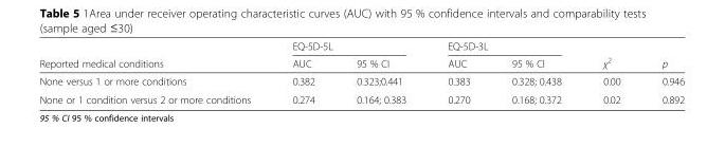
<table><thead><tr><td rowspan="2">Reported medical conditions</td><td colspan="2">EQ-5D-5L</td><td colspan="2">EQ-5D-3L</td><td rowspan="2">χ<sup>2</sup></td><td rowspan="2">p</td></tr><tr><td>AUC</td><td>95 % CI</td><td>AUC</td><td>95 % CI</td></tr></thead><tbody><tr><td>None versus 1 or more conditions</td><td>0.382</td><td>0.323;0.441</td><td>0.383</td><td>0.328; 0.438</td><td>0.00</td><td>0.946</td></tr><tr><td>None or 1 condition versus 2 or more conditions</td><td>0.274</td><td>0.164; 0.383</td><td>0.270</td><td>0.168; 0.372</td><td>0.02</td><td>0.892</td></tr></tbody></table>